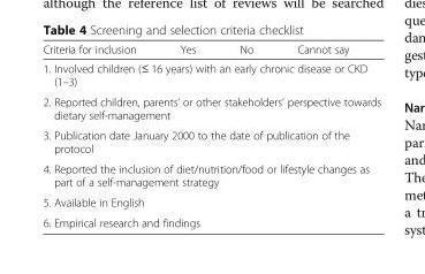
<table><thead><tr><td>Criteria for inclusion</td><td>Yes</td><td>No</td><td>Cannot say</td></tr></thead><tbody><tr><td colspan="4">1. Involved children (≤ 16 years) with an early chronic disease or CKD (1–3)</td></tr><tr><td colspan="4">2. Reported children, parents’ or other stakeholders’ perspective towards dietary self-management</td></tr><tr><td colspan="4">3. Publication date January 2000 to the date of publication of the protocol</td></tr><tr><td colspan="4">4. Reported the inclusion of diet/nutrition/food or lifestyle changes as part of a self-management strategy</td></tr><tr><td colspan="4">5. Available in English</td></tr><tr><td colspan="4">6. Empirical research and findings</td></tr></tbody></table>